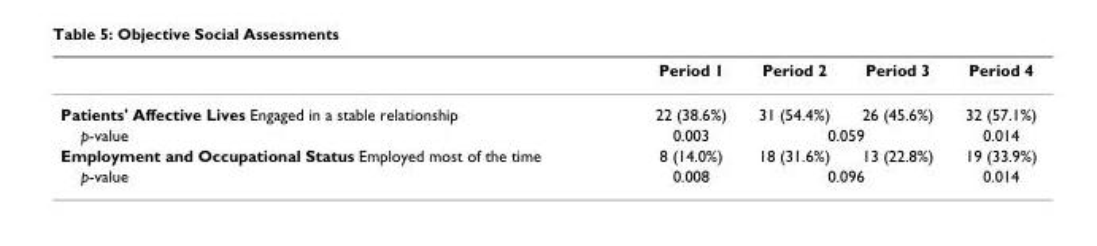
<table><thead><tr><td></td><td>Period 1</td><td>Period 2</td><td>Period 3</td><td>Period 4</td></tr></thead><tbody><tr><td>Patients&#x27; Affective Lives Engaged in a stable relationship</td><td>22 (38.6%)</td><td>31 (54.4%)</td><td>26 (45.6%)</td><td>32 (57.1%)</td></tr><tr><td>p-value</td><td>0.003</td><td colspan="2">0.059</td><td>0.014</td></tr><tr><td>Employment and Occupational Status Employed most of the time</td><td>8 (14.0%)</td><td>18 (31.6%)</td><td>13 (22.8%)</td><td>19 (33.9%)</td></tr><tr><td>p-value</td><td>0.008</td><td colspan="2">0.096</td><td>0.014</td></tr></tbody></table>